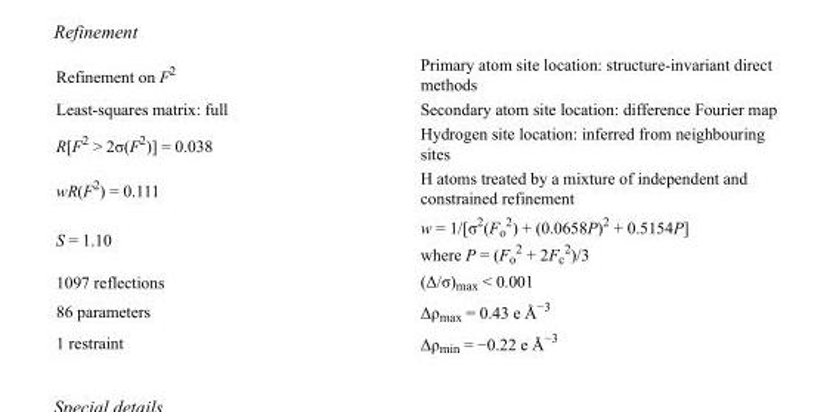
<table><tbody><tr><td>Refinement on F<sup>2</sup></td><td>Primary atom site location: structure-invariant direct methods</td></tr><tr><td>Least-squares matrix: full</td><td>Secondary atom site location: difference Fourier map</td></tr><tr><td>R[F<sup>2</sup> &gt; 2σ(F<sup>2</sup>)] = 0.038</td><td>Hydrogen site location: inferred from neighbouring sites</td></tr><tr><td>wR(F<sup>2</sup>) = 0.111</td><td>H atoms treated by a mixture of independent and constrained refinement</td></tr><tr><td>S = 1.10</td><td>w = 1/[σ<sup>2</sup>(F<sub>o</sub> <sup>2</sup>) + (0.0658P)<sup>2</sup> + 0.5154P] where P = (F<sub>o</sub> <sup>2</sup> + 2F<sub>c</sub> <sup>2</sup>)/3</td></tr><tr><td>1097 reflections</td><td>(Δ/σ)<sub>max</sub> &lt; 0.001</td></tr><tr><td>86 parameters</td><td>Δρ<sub>max</sub> = 0.43 e Å<sup>−3</sup></td></tr><tr><td>1 restraint</td><td>Δρ<sub>min</sub> = −0.22 e Å<sup>−3</sup></td></tr></tbody></table>